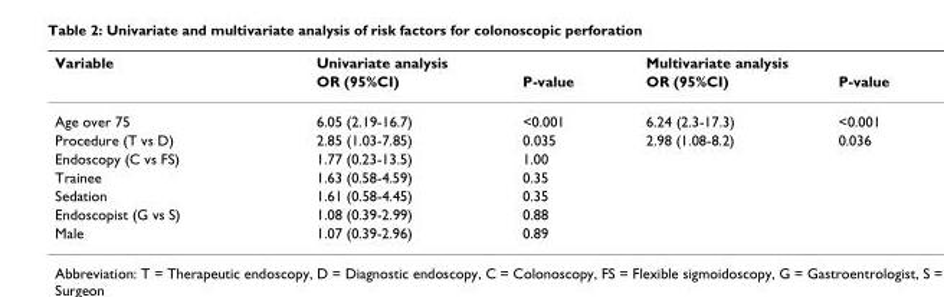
<table><thead><tr><td rowspan="2">Variable</td><td colspan="2">Univariate analysis</td><td colspan="2">Multivariate analysis</td></tr><tr><td>OR (95%CI)</td><td>P-value</td><td>OR (95%CI)</td><td>P-value</td></tr></thead><tbody><tr><td>Age over 75</td><td>6.05 (2.19-16.7)</td><td>&lt;0.001</td><td>6.24 (2.3-17.3)</td><td>&lt;0.001</td></tr><tr><td>Procedure (T vs D)</td><td>2.85 (1.03-7.85)</td><td>0.035</td><td>2.98 (1.08-8.2)</td><td>0.036</td></tr><tr><td>Endoscopy (C vs FS)</td><td>1.77 (0.23-13.5)</td><td>1.00</td><td></td><td></td></tr><tr><td>Trainee</td><td>1.63 (0.58-4.59)</td><td>0.35</td><td></td><td></td></tr><tr><td>Sedation</td><td>1.61 (0.58-4.45)</td><td>0.35</td><td></td><td></td></tr><tr><td>Endoscopist (G vs S)</td><td>1.08 (0.39-2.99)</td><td>0.88</td><td></td><td></td></tr><tr><td>Male</td><td>1.07 (0.39-2.96)</td><td>0.89</td><td></td><td></td></tr></tbody></table>